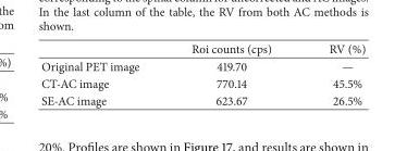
<table><thead><tr><td></td><td>Roi counts (cps)</td><td>RV (%)</td></tr></thead><tbody><tr><td>Original PET image</td><td>419.70</td><td>—</td></tr><tr><td>CT-AC image</td><td>770.14</td><td>45.5%</td></tr><tr><td>SE-AC image</td><td>623.67</td><td>26.5%</td></tr></tbody></table>